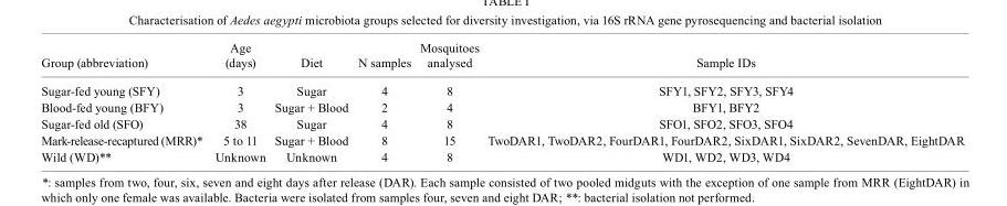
<table><thead><tr><td>Group (abbreviation)</td><td>Age (days)</td><td>Diet</td><td>N samples</td><td>Mosquitoes analysed</td><td>Sample IDs</td></tr></thead><tbody><tr><td>Sugar-fed young (SFY)</td><td>3</td><td>Sugar</td><td>4</td><td>8</td><td>SFY1, SFY2, SFY3, SFY4</td></tr><tr><td>Blood-fed young (BFY)</td><td>3</td><td>Sugar + Blood</td><td>2</td><td>4</td><td>BFY1, BFY2</td></tr><tr><td>Sugar-fed old (SFO)</td><td>38</td><td>Sugar</td><td>4</td><td>8</td><td>SFO1, SFO2, SFO3, SFO4</td></tr><tr><td>Mark-release-recaptured (MRR)*</td><td>5 to 11</td><td>Sugar + Blood</td><td>8</td><td>15</td><td>TwoDAR1, TwoDAR2, FourDAR1, FourDAR2, SixDAR1, SixDAR2, SevenDAR, EightDAR</td></tr><tr><td>Wild (WD)**</td><td>Unknown</td><td>Unknown</td><td>4</td><td>8</td><td>WD1, WD2, WD3, WD4</td></tr></tbody></table>